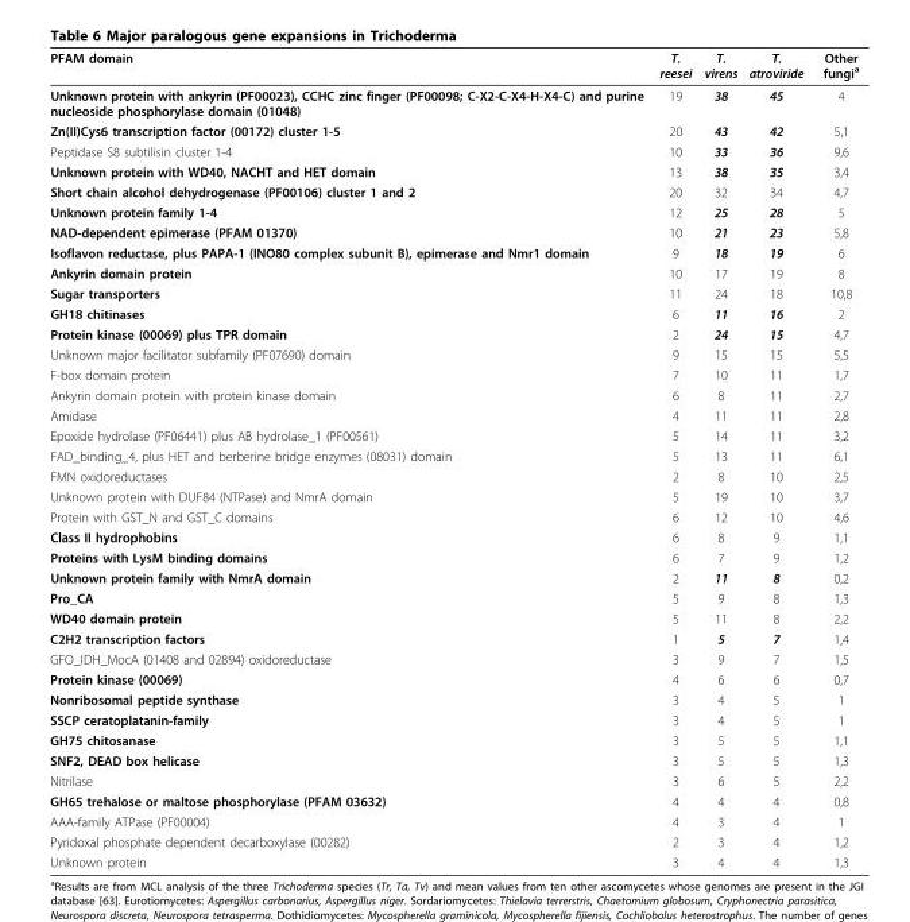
<table><thead><tr><td>PFAM domain</td><td>T. reesei</td><td>T. virens</td><td>T. atroviride</td><td>Other fungi<sup>a</sup></td></tr></thead><tbody><tr><td>Unknown protein with ankyrin (PF00023), CCHC zinc finger (PF00098; C-X2-C-X4-H-X4-C) and purine nucleoside phosphorylase domain (01048)</td><td>19</td><td>38</td><td>45</td><td>4</td></tr><tr><td>Zn(II)Cys6 transcription factor (00172) cluster 1-5</td><td>20</td><td>43</td><td>42</td><td>5,1</td></tr><tr><td>Peptidase S8 subtilisin cluster 1-4</td><td>10</td><td>33</td><td>36</td><td>9,6</td></tr><tr><td>Unknown protein with WD40, NACHT and HET domain</td><td>13</td><td>38</td><td>35</td><td>3,4</td></tr><tr><td>Short chain alcohol dehydrogenase (PF00106) cluster 1 and 2</td><td>20</td><td>32</td><td>34</td><td>4,7</td></tr><tr><td>Unknown protein family 1-4</td><td>12</td><td>25</td><td>28</td><td>5</td></tr><tr><td>NAD-dependent epimerase (PFAM 01370)</td><td>10</td><td>21</td><td>23</td><td>5,8</td></tr><tr><td>Isoflavon reductase, plus PAPA-1 (INO80 complex subunit B), epimerase and Nmr1 domain</td><td>9</td><td>18</td><td>19</td><td>6</td></tr><tr><td>Ankyrin domain protein</td><td>10</td><td>17</td><td>19</td><td>8</td></tr><tr><td>Sugar transporters</td><td>11</td><td>24</td><td>18</td><td>10,8</td></tr><tr><td>GH18 chitinases</td><td>6</td><td>11</td><td>16</td><td>2</td></tr><tr><td>Protein kinase (00069) plus TPR domain</td><td>2</td><td>24</td><td>15</td><td>4,7</td></tr><tr><td>Unknown major facilitator subfamily (PF07690) domain</td><td>9</td><td>15</td><td>15</td><td>5,5</td></tr><tr><td>F-box domain protein</td><td>7</td><td>10</td><td>11</td><td>1,7</td></tr><tr><td>Ankyrin domain protein with protein kinase domain</td><td>6</td><td>8</td><td>11</td><td>2,7</td></tr><tr><td>Amidase</td><td>4</td><td>11</td><td>11</td><td>2,8</td></tr><tr><td>Epoxide hydrolase (PF06441) plus AB hydrolase_1 (PF00561)</td><td>5</td><td>14</td><td>11</td><td>3,2</td></tr><tr><td>FAD_binding_4, plus HET and berberine bridge enzymes (08031) domain</td><td>5</td><td>13</td><td>11</td><td>6,1</td></tr><tr><td>FMN oxidoreductases</td><td>2</td><td>8</td><td>10</td><td>2,5</td></tr><tr><td>Unknown protein with DUF84 (NTPase) and NmrA domain</td><td>5</td><td>19</td><td>10</td><td>3,7</td></tr><tr><td>Protein with GST_N and GST_C domains</td><td>6</td><td>12</td><td>10</td><td>4,6</td></tr><tr><td>Class II hydrophobins</td><td>6</td><td>8</td><td>9</td><td>1,1</td></tr><tr><td>Proteins with LysM binding domains</td><td>6</td><td>7</td><td>9</td><td>1,2</td></tr><tr><td>Unknown protein family with NmrA domain</td><td>2</td><td>11</td><td>8</td><td>0,2</td></tr><tr><td>Pro_CA</td><td>5</td><td>9</td><td>8</td><td>1,3</td></tr><tr><td>WD40 domain protein</td><td>5</td><td>11</td><td>8</td><td>2,2</td></tr><tr><td>C2H2 transcription factors</td><td>1</td><td>5</td><td>7</td><td>1,4</td></tr><tr><td>GFO_IDH_MocA (01408 and 02894) oxidoreductase</td><td>3</td><td>9</td><td>7</td><td>1,5</td></tr><tr><td>Protein kinase (00069)</td><td>4</td><td>6</td><td>6</td><td>0,7</td></tr><tr><td>Nonribosomal peptide synthase</td><td>3</td><td>4</td><td>5</td><td>1</td></tr><tr><td>SSCP ceratoplatanin-family</td><td>3</td><td>4</td><td>5</td><td>1</td></tr><tr><td>GH75 chitosanase</td><td>3</td><td>5</td><td>5</td><td>1,1</td></tr><tr><td>SNF2, DEAD box helicase</td><td>3</td><td>5</td><td>5</td><td>1,3</td></tr><tr><td>Nitrilase</td><td>3</td><td>6</td><td>5</td><td>2,2</td></tr><tr><td>GH65 trehalose or maltose phosphorylase (PFAM 03632)</td><td>4</td><td>4</td><td>4</td><td>0,8</td></tr><tr><td>AAA-family ATPase (PF00004)</td><td>4</td><td>3</td><td>4</td><td>1</td></tr><tr><td>Pyridoxal phosphate dependent decarboxylase (00282)</td><td>2</td><td>3</td><td>4</td><td>1,2</td></tr><tr><td>Unknown protein</td><td>3</td><td>4</td><td>4</td><td>1,3</td></tr></tbody></table>